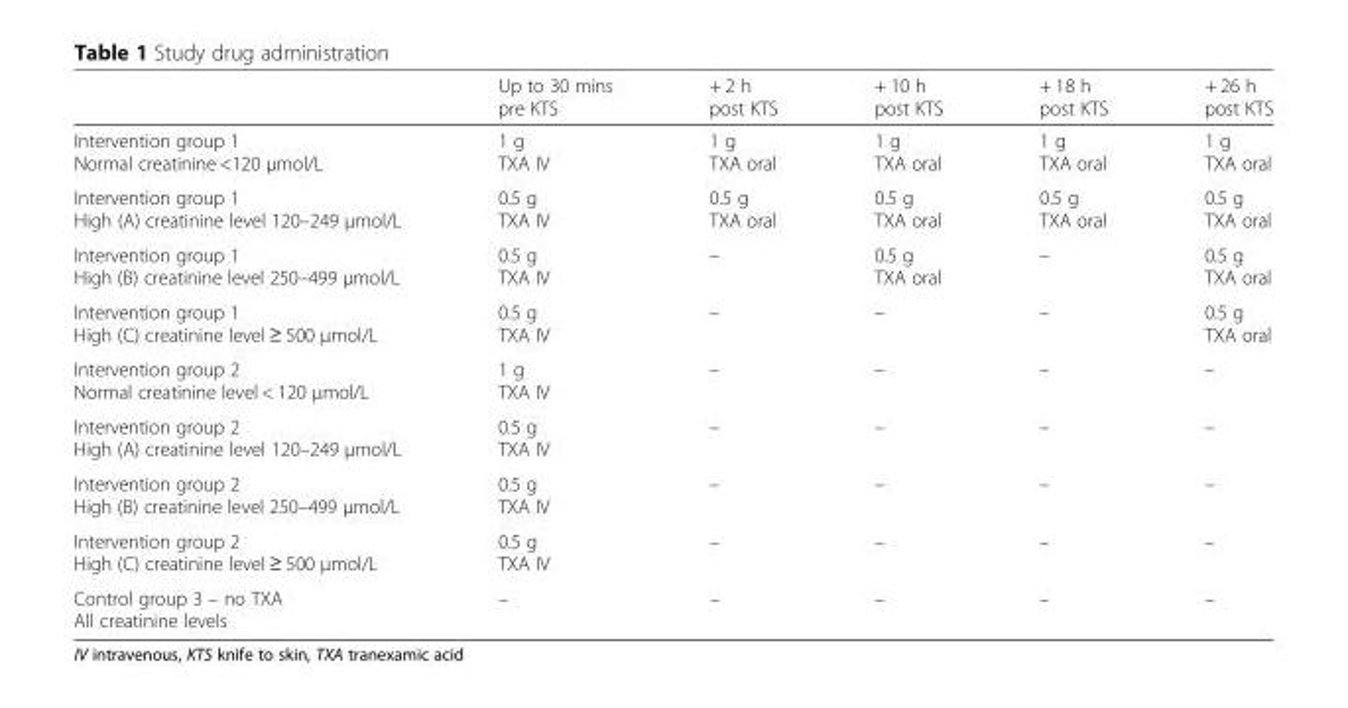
<table><thead><tr><td></td><td>Up to 30 mins pre KTS</td><td>+ 2 h post KTS</td><td>+ 10 h post KTS</td><td>+ 18 h post KTS</td><td>+ 26 h post KTS</td></tr></thead><tbody><tr><td>Intervention group 1 Normal creatinine &lt;120 μmol/L</td><td>1 g TXA IV</td><td>1 g TXA oral</td><td>1 g TXA oral</td><td>1 g TXA oral</td><td>1 g TXA oral</td></tr><tr><td>Intervention group 1 High (A) creatinine level 120–249 μmol/L</td><td>0.5 g TXA IV</td><td>0.5 g TXA oral</td><td>0.5 g TXA oral</td><td>0.5 g TXA oral</td><td>0.5 g TXA oral</td></tr><tr><td>Intervention group 1 High (B) creatinine level 250–499 μmol/L</td><td>0.5 g TXA IV</td><td>–</td><td>0.5 g TXA oral</td><td>–</td><td>0.5 g TXA oral</td></tr><tr><td>Intervention group 1 High (C) creatinine level ≥ 500 μmol/L</td><td>0.5 g TXA IV</td><td>–</td><td>–</td><td>–</td><td>0.5 g TXA oral</td></tr><tr><td>Intervention group 2 Normal creatinine level &lt; 120 μmol/L</td><td>1 g TXA IV</td><td>–</td><td>–</td><td>–</td><td>–</td></tr><tr><td>Intervention group 2 High (A) creatinine level 120–249 μmol/L</td><td>0.5 g TXA IV</td><td>–</td><td>–</td><td>–</td><td>–</td></tr><tr><td>Intervention group 2 High (B) creatinine level 250–499 μmol/L</td><td>0.5 g TXA IV</td><td>–</td><td>–</td><td>–</td><td>–</td></tr><tr><td>Intervention group 2 High (C) creatinine level ≥ 500 μmol/L</td><td>0.5 g TXA IV</td><td>–</td><td>–</td><td>–</td><td>–</td></tr><tr><td>Control group 3 – no TXA All creatinine levels</td><td>–</td><td>–</td><td>–</td><td>–</td><td>–</td></tr></tbody></table>